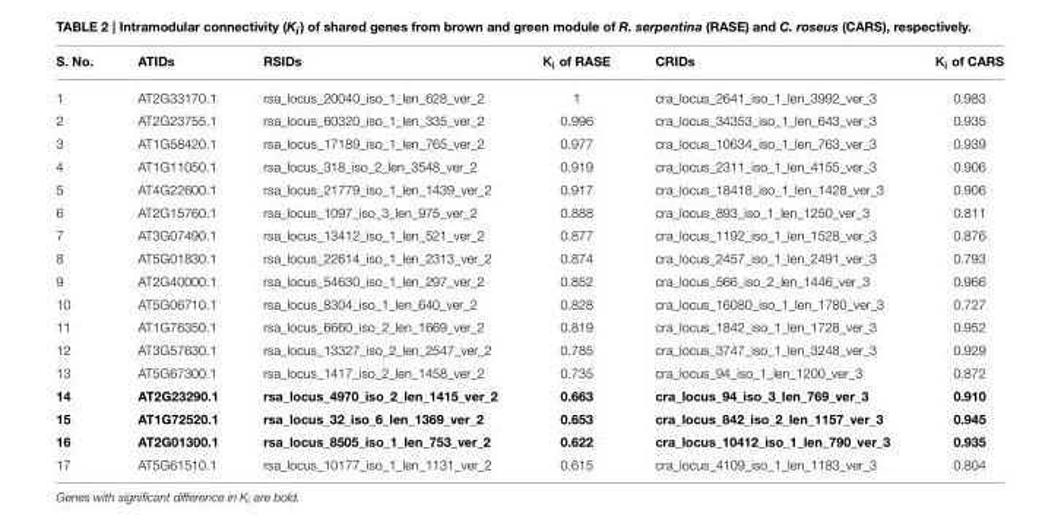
<table><thead><tr><td>S. No.</td><td>ATIDs</td><td>RSIDs</td><td>K<sub>i</sub> of RASE</td><td>CRIDs</td><td>K<sub>i</sub> of CARS</td></tr></thead><tbody><tr><td>1</td><td>AT2G33170.1</td><td>rsa_locus_20040_iso_1_len_628_ver_2</td><td>1</td><td>cra_locus_2641_iso_1_len_3992_ver_3</td><td>0.983</td></tr><tr><td>2</td><td>AT2G23755.1</td><td>rsa_locus_60320_iso_1_len_335_ver_2</td><td>0.996</td><td>cra_locus_34353_iso_1_len_643_ver_3</td><td>0.935</td></tr><tr><td>3</td><td>AT1G58420.1</td><td>rsa_locus_17189_iso_1_len_765_ver_2</td><td>0.977</td><td>cra_locus_10634_iso_1_len_763_ver_3</td><td>0.939</td></tr><tr><td>4</td><td>AT1G11050.1</td><td>rsa_locus_318_iso_2_len_3548_ver_2</td><td>0.919</td><td>cra_locus_2311_iso_1_len_4155_ver_3</td><td>0.906</td></tr><tr><td>5</td><td>AT4G22600.1</td><td>rsa_locus_21779_iso_1_len_1439_ver_2</td><td>0.917</td><td>cra_locus_18418_iso_1_len_1428_ver_3</td><td>0.906</td></tr><tr><td>6</td><td>AT2G15760.1</td><td>rsa_locus_1097_iso_3_len_975_ver_2</td><td>0.888</td><td>cra_locus_893_iso_1_len_1250_ver_3</td><td>0.811</td></tr><tr><td>7</td><td>AT3G07490.1</td><td>rsa_locus_13412_iso_1_len_521_ver_2</td><td>0.877</td><td>cra_locus_1192_iso_1_len_1528_ver_3</td><td>0.876</td></tr><tr><td>8</td><td>AT5G01830.1</td><td>rsa_locus_22614_iso_1_len_2313_ver_2</td><td>0.874</td><td>cra_locus_2457_iso_1_len_2491_ver_3</td><td>0.793</td></tr><tr><td>9</td><td>AT2G40000.1</td><td>rsa_locus_54630_iso_1_len_297_ver_2</td><td>0.852</td><td>cra_locus_566_iso_2_len_1446_ver_3</td><td>0.966</td></tr><tr><td>10</td><td>AT5G06710.1</td><td>rsa_locus_8304_iso_1_len_640_ver_2</td><td>0.828</td><td>cra_locus_16080_iso_1_len_1780_ver_3</td><td>0.727</td></tr><tr><td>11</td><td>AT1G76350.1</td><td>rsa_locus_6660_iso_2_len_1669_ver_2</td><td>0.819</td><td>cra_locus_1842_iso_1_len_1728_ver_3</td><td>0.952</td></tr><tr><td>12</td><td>AT3G57630.1</td><td>rsa_locus_13327_iso_2_len_2547_ver_2</td><td>0.785</td><td>cra_locus_3747_iso_1_len_3248_ver_3</td><td>0.929</td></tr><tr><td>13</td><td>AT5G67300.1</td><td>rsa_locus_1417_iso_2_len_1458_ver_2</td><td>0.735</td><td>cra_locus_94_iso_1_len_1200_ver_3</td><td>0.872</td></tr><tr><td>14</td><td>AT2G23290.1</td><td>rsa_locus_4970_iso_2_len_1415_ver_2</td><td>0.663</td><td>cra_locus_94_iso_3_len_769_ver_3</td><td>0.910</td></tr><tr><td>15</td><td>AT1G72520.1</td><td>rsa_locus_32_iso_6_len_1369_ver_2</td><td>0.653</td><td>cra_locus_842_iso_2_len_1157_ver_3</td><td>0.945</td></tr><tr><td>16</td><td>AT2G01300.1</td><td>rsa_locus_8505_iso_1_len_753_ver_2</td><td>0.622</td><td>cra_locus_10412_iso_1_len_790_ver_3</td><td>0.935</td></tr><tr><td>17</td><td>AT5G61510.1</td><td>rsa_locus_10177_iso_1_len_1131_ver_2</td><td>0.615</td><td>cra_locus_4109_iso_1_len_1183_ver_3</td><td>0.804</td></tr></tbody></table>